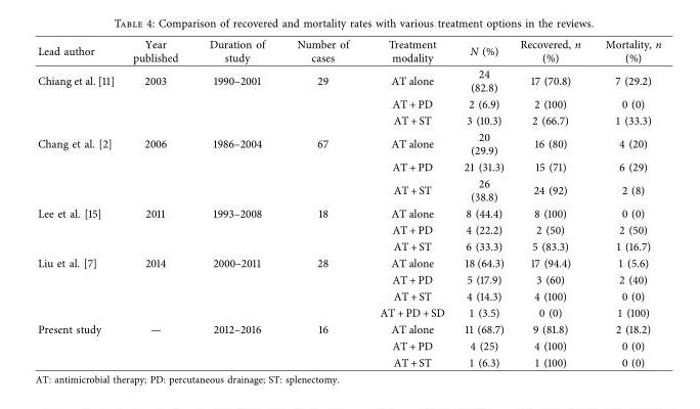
<table><thead><tr><td>Lead author</td><td>Year published</td><td>Duration of study</td><td>Number of cases</td><td>Treatment modality</td><td>N (%)</td><td>Recovered, n (%)</td><td>Mortality, n (%)</td></tr></thead><tbody><tr><td rowspan="3">Chiang et al. [11]</td><td>2003</td><td>1990–2001</td><td>29</td><td>AT alone</td><td>24 (82.8)</td><td>17 (70.8)</td><td>7 (29.2)</td></tr><tr><td></td><td></td><td></td><td>AT + PD</td><td>2 (6.9)</td><td>2 (100)</td><td>0 (0)</td></tr><tr><td></td><td></td><td></td><td>AT + ST</td><td>3 (10.3)</td><td>2 (66.7)</td><td>1 (33.3)</td></tr><tr><td rowspan="3">Chang et al. [2]</td><td>2006</td><td>1986–2004</td><td>67</td><td>AT alone</td><td>20 (29.9)</td><td>16 (80)</td><td>4 (20)</td></tr><tr><td></td><td></td><td></td><td>AT + PD</td><td>21 (31.3)</td><td>15 (71)</td><td>6 (29)</td></tr><tr><td></td><td></td><td></td><td>AT + ST</td><td>26 (38.8)</td><td>24 (92)</td><td>2 (8)</td></tr><tr><td rowspan="3">Lee et al. [15]</td><td>2011</td><td>1993–2008</td><td>18</td><td>AT alone</td><td>8 (44.4)</td><td>8 (100)</td><td>0 (0)</td></tr><tr><td></td><td></td><td></td><td>AT + PD</td><td>4 (22.2)</td><td>2 (50)</td><td>2 (50)</td></tr><tr><td></td><td></td><td></td><td>AT + ST</td><td>6 (33.3)</td><td>5 (83.3)</td><td>1 (16.7)</td></tr><tr><td rowspan="4">Liu et al. [7]</td><td>2014</td><td>2000–2011</td><td>28</td><td>AT alone</td><td>18 (64.3)</td><td>17 (94.4)</td><td>1 (5.6)</td></tr><tr><td></td><td></td><td></td><td>AT + PD</td><td>5 (17.9)</td><td>3 (60)</td><td>2 (40)</td></tr><tr><td></td><td></td><td></td><td>AT + ST</td><td>4 (14.3)</td><td>4 (100)</td><td>0 (0)</td></tr><tr><td></td><td></td><td></td><td>AT + PD + SD</td><td>1 (3.5)</td><td>0 (0)</td><td>1 (100)</td></tr><tr><td rowspan="3">Present study</td><td>—</td><td>2012–2016</td><td>16</td><td>AT alone</td><td>11 (68.7)</td><td>9 (81.8)</td><td>2 (18.2)</td></tr><tr><td></td><td></td><td></td><td>AT + PD</td><td>4 (25)</td><td>4 (100)</td><td>0 (0)</td></tr><tr><td></td><td></td><td></td><td>AT + ST</td><td>1 (6.3)</td><td>1 (100)</td><td>0 (0)</td></tr></tbody></table>